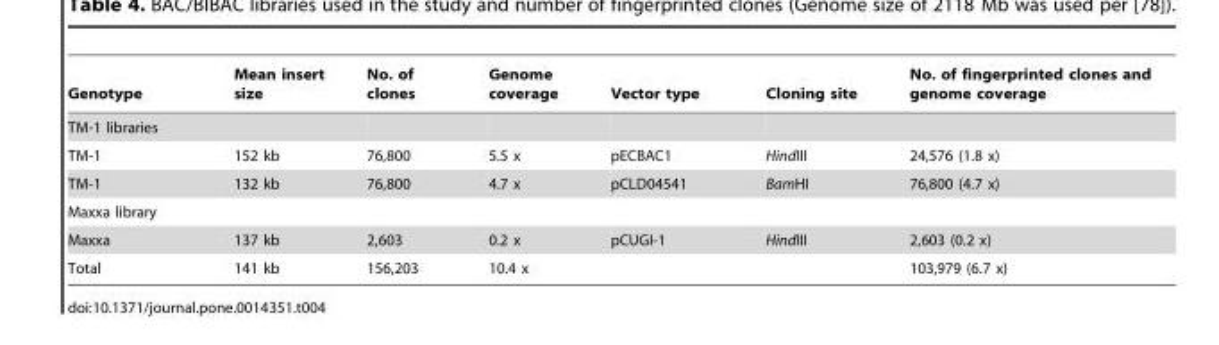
<table><thead><tr><td>Genotype</td><td>Mean insert size</td><td>No. of clones</td><td>Genome coverage</td><td>Vector type</td><td>Cloning site</td><td>No. of fingerprinted clones and genome coverage</td></tr></thead><tbody><tr><td colspan="7">TM-1 libraries</td></tr><tr><td>TM-1</td><td>152 kb</td><td>76,800</td><td>5.5 x</td><td>pECBAC1</td><td>HindIII</td><td>24,576 (1.8 x)</td></tr><tr><td>TM-1</td><td>132 kb</td><td>76,800</td><td>4.7 x</td><td>pCLD04541</td><td>BamHI</td><td>76,800 (4.7 x)</td></tr><tr><td colspan="7">Maxxa library</td></tr><tr><td>Maxxa</td><td>137 kb</td><td>2,603</td><td>0.2 x</td><td>pCUGI-1</td><td>HindIII</td><td>2,603 (0.2 x)</td></tr><tr><td>Total</td><td>141 kb</td><td>156,203</td><td>10.4 x</td><td></td><td></td><td>103,979 (6.7 x)</td></tr></tbody></table>